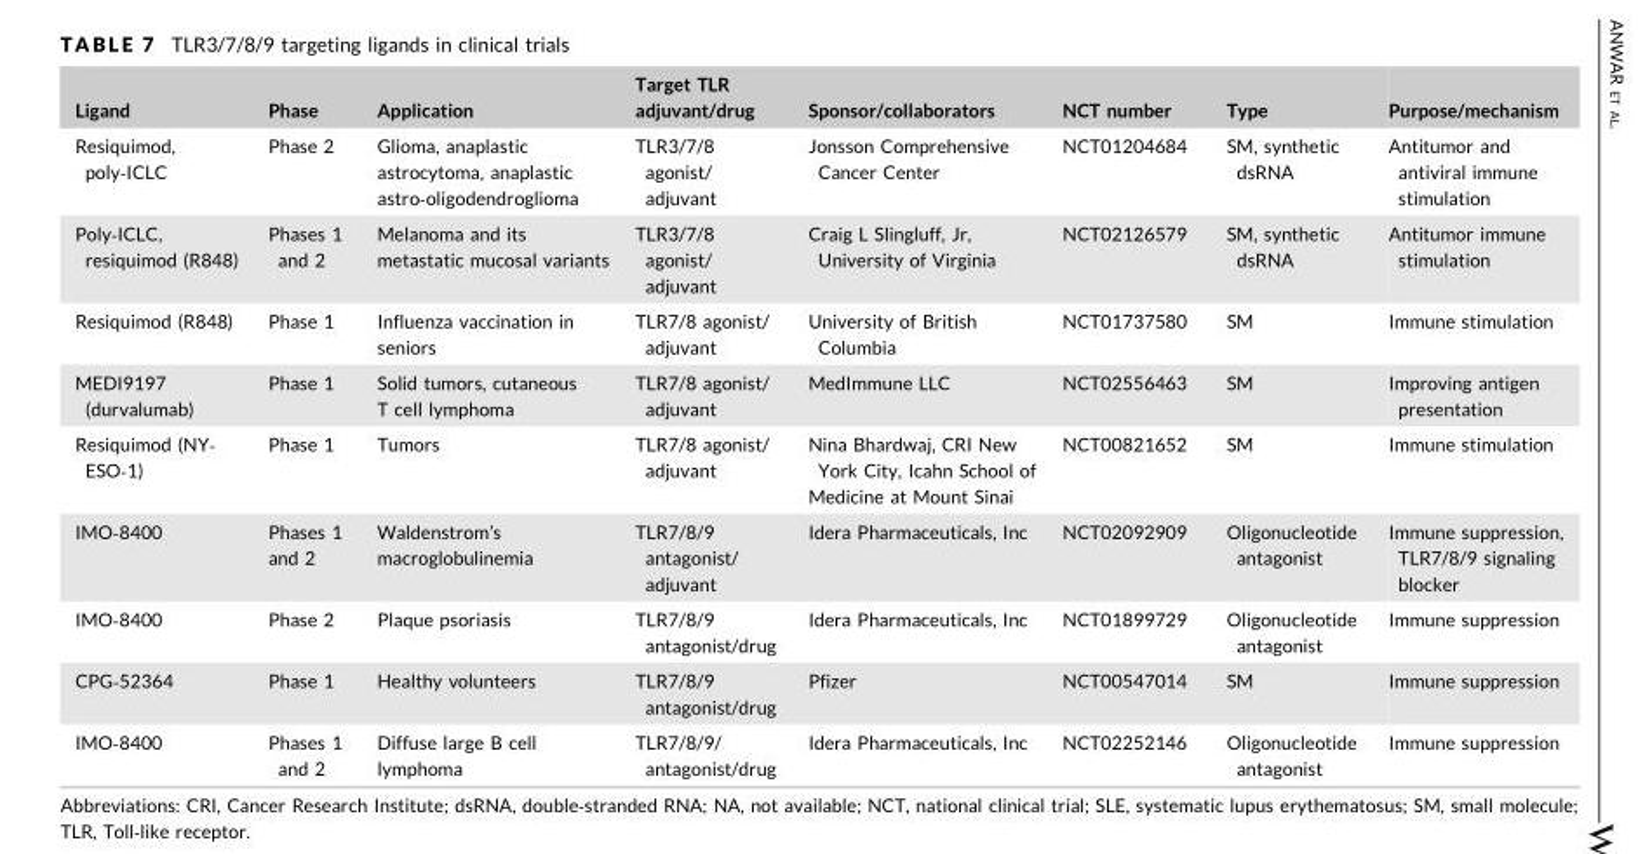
<table><thead><tr><td>Ligand</td><td>Phase</td><td>Application</td><td>Target TLR adjuvant/drug</td><td>Sponsor/collaborators</td><td>NCT number</td><td>Type</td><td>Purpose/mechanism</td></tr></thead><tbody><tr><td>Resiquimod, poly‐ICLC</td><td>Phase 2</td><td>Glioma, anaplastic astrocytoma, anaplastic astro‐oligodendroglioma</td><td>TLR3/7/8 agonist/ adjuvant</td><td>Jonsson Comprehensive Cancer Center</td><td>NCT01204684</td><td>SM, synthetic dsRNA</td><td>Antitumor and antiviral immune stimulation</td></tr><tr><td>Poly‐ICLC, resiquimod (R848)</td><td>Phases 1 and 2</td><td>Melanoma and its metastatic mucosal variants</td><td>TLR3/7/8 agonist/ adjuvant</td><td>Craig L Slingluff, Jr, University of Virginia</td><td>NCT02126579</td><td>SM, synthetic dsRNA</td><td>Antitumor immune stimulation</td></tr><tr><td>Resiquimod (R848)</td><td>Phase 1</td><td>Influenza vaccination in seniors</td><td>TLR7/8 agonist/ adjuvant</td><td>University of British Columbia</td><td>NCT01737580</td><td>SM</td><td>Immune stimulation</td></tr><tr><td>MEDI9197 (durvalumab)</td><td>Phase 1</td><td>Solid tumors, cutaneous T cell lymphoma</td><td>TLR7/8 agonist/ adjuvant</td><td>MedImmune LLC</td><td>NCT02556463</td><td>SM</td><td>Improving antigen presentation</td></tr><tr><td>Resiquimod (NY‐ ESO‐1)</td><td>Phase 1</td><td>Tumors</td><td>TLR7/8 agonist/ adjuvant</td><td>Nina Bhardwaj, CRI New York City, Icahn School of Medicine at Mount Sinai</td><td>NCT00821652</td><td>SM</td><td>Immune stimulation</td></tr><tr><td>IMO‐8400</td><td>Phases 1 and 2</td><td>Waldenstrom’s macroglobulinemia</td><td>TLR7/8/9 antagonist/ adjuvant</td><td>Idera Pharmaceuticals, Inc</td><td>NCT02092909</td><td>Oligonucleotide antagonist</td><td>Immune suppression, TLR7/8/9 signaling blocker</td></tr><tr><td>IMO‐8400</td><td>Phase 2</td><td>Plaque psoriasis</td><td>TLR7/8/9 antagonist/drug</td><td>Idera Pharmaceuticals, Inc</td><td>NCT01899729</td><td>Oligonucleotide antagonist</td><td>Immune suppression</td></tr><tr><td>CPG‐52364</td><td>Phase 1</td><td>Healthy volunteers</td><td>TLR7/8/9 antagonist/drug</td><td>Pfizer</td><td>NCT00547014</td><td>SM</td><td>Immune suppression</td></tr><tr><td>IMO‐8400</td><td>Phases 1 and 2</td><td>Diffuse large B cell lymphoma</td><td>TLR7/8/9/ antagonist/drug</td><td>Idera Pharmaceuticals, Inc</td><td>NCT02252146</td><td>Oligonucleotide antagonist</td><td>Immune suppression</td></tr></tbody></table>